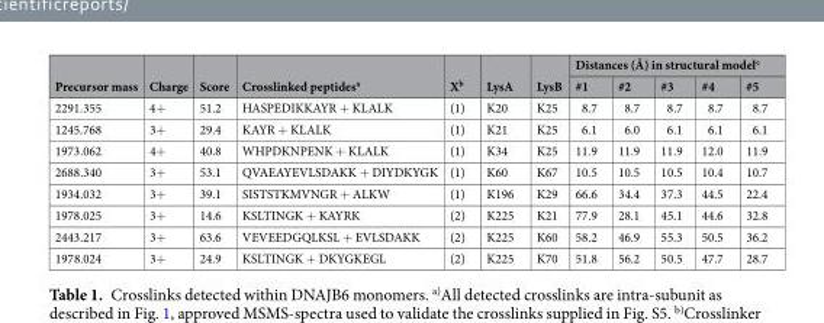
<table><thead><tr><td rowspan="2">Precursor mass</td><td rowspan="2">Charge</td><td rowspan="2">Score</td><td rowspan="2">Crosslinked peptides<sup>a</sup></td><td rowspan="2">X<sup>b</sup></td><td rowspan="2">LysA</td><td rowspan="2">LysB</td><td colspan="5">Distances (Å) in structural model<sup>c</sup></td></tr><tr><td>#1</td><td>#2</td><td>#3</td><td>#4</td><td>#5</td></tr></thead><tbody><tr><td>2291.355</td><td>4+</td><td>51.2</td><td>HASPEDIKKAYR + KLALK</td><td>(1)</td><td>K20</td><td>K25</td><td>8.7</td><td>8.7</td><td>8.7</td><td>8.7</td><td>8.7</td></tr><tr><td>1245.768</td><td>3+</td><td>29.4</td><td>KAYR + KLALK</td><td>(1)</td><td>K21</td><td>K25</td><td>6.1</td><td>6.0</td><td>6.1</td><td>6.1</td><td>6.1</td></tr><tr><td>1973.062</td><td>4+</td><td>40.8</td><td>WHPDKNPENK + KLALK</td><td>(1)</td><td>K34</td><td>K25</td><td>11.9</td><td>11.9</td><td>11.9</td><td>12.0</td><td>11.9</td></tr><tr><td>2688.340</td><td>3+</td><td>53.1</td><td>QVAEAYEVLSDAKK + DIYDKYGK</td><td>(1)</td><td>K60</td><td>K67</td><td>10.5</td><td>10.5</td><td>10.5</td><td>10.4</td><td>10.7</td></tr><tr><td>1934.032</td><td>3+</td><td>39.1</td><td>SISTSTKMVNGR + ALKW</td><td>(1)</td><td>K196</td><td>K29</td><td>66.6</td><td>34.4</td><td>37.3</td><td>44.5</td><td>22.4</td></tr><tr><td>1978.025</td><td>3+</td><td>14.6</td><td>KSLTINGK + KAYRK</td><td>(2)</td><td>K225</td><td>K21</td><td>77.9</td><td>28.1</td><td>45.1</td><td>44.6</td><td>32.8</td></tr><tr><td>2443.217</td><td>3+</td><td>63.6</td><td>VEVEEDGQLKSL + EVLSDAKK</td><td>(2)</td><td>K225</td><td>K60</td><td>58.2</td><td>46.9</td><td>55.3</td><td>50.5</td><td>36.2</td></tr><tr><td>1978.024</td><td>3+</td><td>24.9</td><td>KSLTINGK + DKYGKEGL</td><td>(2)</td><td>K225</td><td>K70</td><td>51.8</td><td>56.2</td><td>50.5</td><td>47.7</td><td>28.7</td></tr></tbody></table>